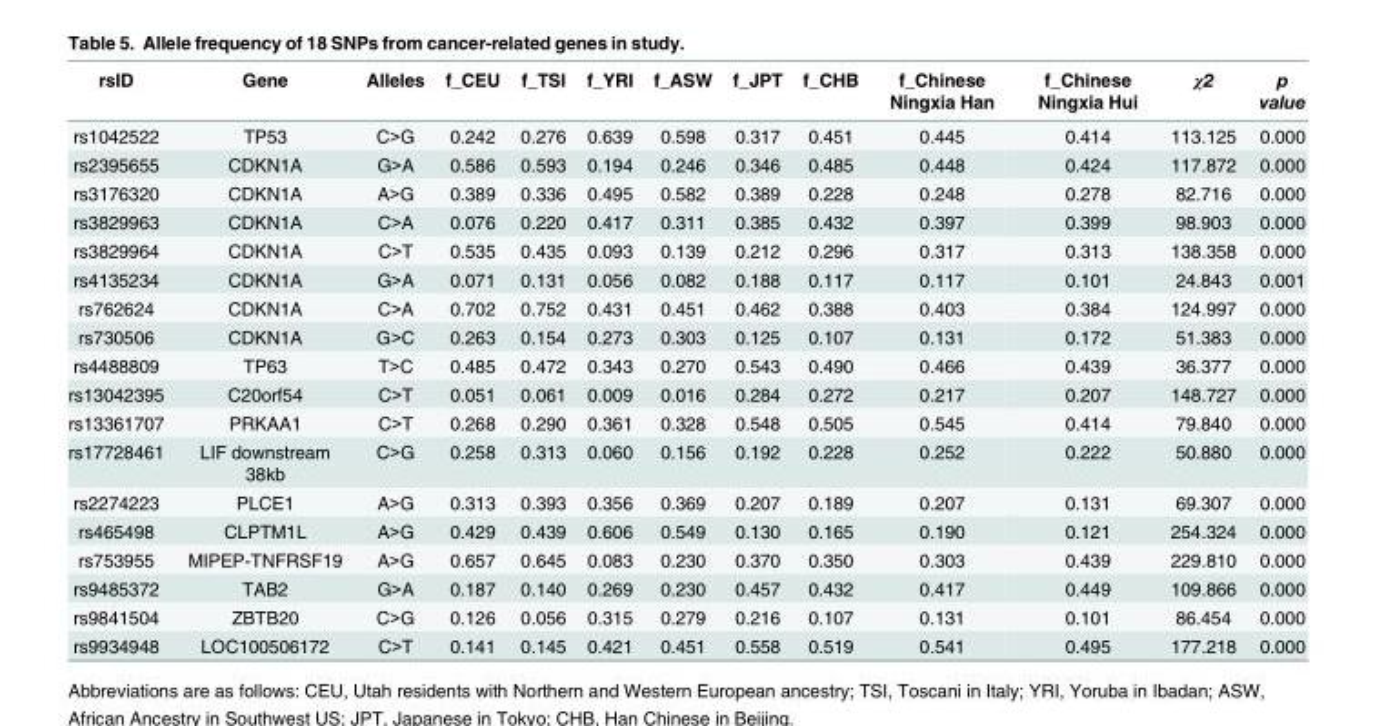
<table><thead><tr><td>rsID</td><td>Gene</td><td>Alleles</td><td>f_CEU</td><td>f_TSI</td><td>f_YRI</td><td>f_ASW</td><td>f_JPT</td><td>f_CHB</td><td>f_Chinese Ningxia Han</td><td>f_Chinese Ningxia Hui</td><td>χ2</td><td>p value</td></tr></thead><tbody><tr><td>rs1042522</td><td>TP53</td><td>C&gt;G</td><td>0.242</td><td>0.276</td><td>0.639</td><td>0.598</td><td>0.317</td><td>0.451</td><td>0.445</td><td>0.414</td><td>113.125</td><td>0.000</td></tr><tr><td>rs2395655</td><td>CDKN1A</td><td>G&gt;A</td><td>0.586</td><td>0.593</td><td>0.194</td><td>0.246</td><td>0.346</td><td>0.485</td><td>0.448</td><td>0.424</td><td>117.872</td><td>0.000</td></tr><tr><td>rs3176320</td><td>CDKN1A</td><td>A&gt;G</td><td>0.389</td><td>0.336</td><td>0.495</td><td>0.582</td><td>0.389</td><td>0.228</td><td>0.248</td><td>0.278</td><td>82.716</td><td>0.000</td></tr><tr><td>rs3829963</td><td>CDKN1A</td><td>C&gt;A</td><td>0.076</td><td>0.220</td><td>0.417</td><td>0.311</td><td>0.385</td><td>0.432</td><td>0.397</td><td>0.399</td><td>98.903</td><td>0.000</td></tr><tr><td>rs3829964</td><td>CDKN1A</td><td>C&gt;T</td><td>0.535</td><td>0.435</td><td>0.093</td><td>0.139</td><td>0.212</td><td>0.296</td><td>0.317</td><td>0.313</td><td>138.358</td><td>0.000</td></tr><tr><td>rs4135234</td><td>CDKN1A</td><td>G&gt;A</td><td>0.071</td><td>0.131</td><td>0.056</td><td>0.082</td><td>0.188</td><td>0.117</td><td>0.117</td><td>0.101</td><td>24.843</td><td>0.001</td></tr><tr><td>rs762624</td><td>CDKN1A</td><td>C&gt;A</td><td>0.702</td><td>0.752</td><td>0.431</td><td>0.451</td><td>0.462</td><td>0.388</td><td>0.403</td><td>0.384</td><td>124.997</td><td>0.000</td></tr><tr><td>rs730506</td><td>CDKN1A</td><td>G&gt;C</td><td>0.263</td><td>0.154</td><td>0.273</td><td>0.303</td><td>0.125</td><td>0.107</td><td>0.131</td><td>0.172</td><td>51.383</td><td>0.000</td></tr><tr><td>rs4488809</td><td>TP63</td><td>T&gt;C</td><td>0.485</td><td>0.472</td><td>0.343</td><td>0.270</td><td>0.543</td><td>0.490</td><td>0.466</td><td>0.439</td><td>36.377</td><td>0.000</td></tr><tr><td>rs13042395</td><td>C20orf54</td><td>C&gt;T</td><td>0.051</td><td>0.061</td><td>0.009</td><td>0.016</td><td>0.284</td><td>0.272</td><td>0.217</td><td>0.207</td><td>148.727</td><td>0.000</td></tr><tr><td>rs13361707</td><td>PRKAA1</td><td>C&gt;T</td><td>0.268</td><td>0.290</td><td>0.361</td><td>0.328</td><td>0.548</td><td>0.505</td><td>0.545</td><td>0.414</td><td>79.840</td><td>0.000</td></tr><tr><td>rs17728461</td><td>LIF downstream 38kb</td><td>C&gt;G</td><td>0.258</td><td>0.313</td><td>0.060</td><td>0.156</td><td>0.192</td><td>0.228</td><td>0.252</td><td>0.222</td><td>50.880</td><td>0.000</td></tr><tr><td>rs2274223</td><td>PLCE1</td><td>A&gt;G</td><td>0.313</td><td>0.393</td><td>0.356</td><td>0.369</td><td>0.207</td><td>0.189</td><td>0.207</td><td>0.131</td><td>69.307</td><td>0.000</td></tr><tr><td>rs465498</td><td>CLPTM1L</td><td>A&gt;G</td><td>0.429</td><td>0.439</td><td>0.606</td><td>0.549</td><td>0.130</td><td>0.165</td><td>0.190</td><td>0.121</td><td>254.324</td><td>0.000</td></tr><tr><td>rs753955</td><td>MIPEP-TNFRSF19</td><td>A&gt;G</td><td>0.657</td><td>0.645</td><td>0.083</td><td>0.230</td><td>0.370</td><td>0.350</td><td>0.303</td><td>0.439</td><td>229.810</td><td>0.000</td></tr><tr><td>rs9485372</td><td>TAB2</td><td>G&gt;A</td><td>0.187</td><td>0.140</td><td>0.269</td><td>0.230</td><td>0.457</td><td>0.432</td><td>0.417</td><td>0.449</td><td>109.866</td><td>0.000</td></tr><tr><td>rs9841504</td><td>ZBTB20</td><td>C&gt;G</td><td>0.126</td><td>0.056</td><td>0.315</td><td>0.279</td><td>0.216</td><td>0.107</td><td>0.131</td><td>0.101</td><td>86.454</td><td>0.000</td></tr><tr><td>rs9934948</td><td>LOC100506172</td><td>C&gt;T</td><td>0.141</td><td>0.145</td><td>0.421</td><td>0.451</td><td>0.558</td><td>0.519</td><td>0.541</td><td>0.495</td><td>177.218</td><td>0.000</td></tr></tbody></table>